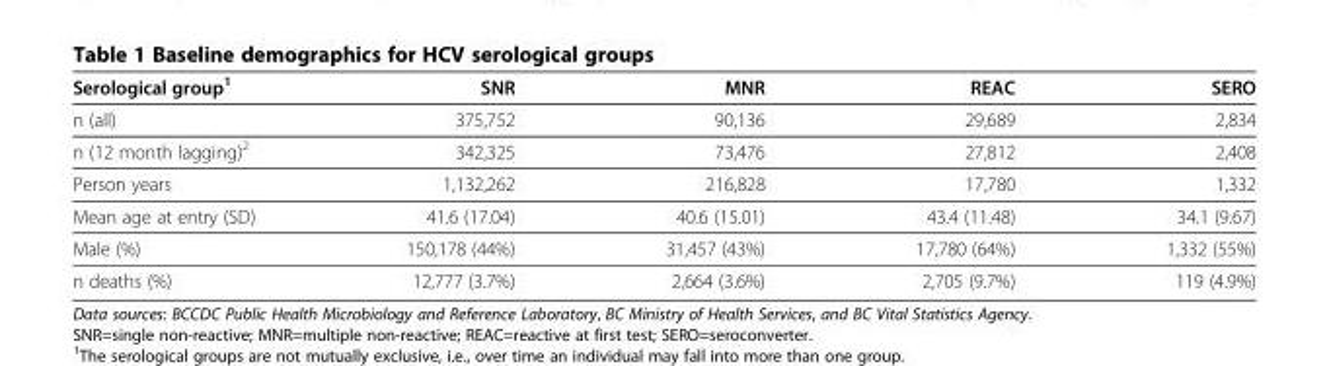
<table><thead><tr><td>Serological group<sup>1</sup></td><td>SNR</td><td>MNR</td><td>REAC</td><td>SERO</td></tr></thead><tbody><tr><td>n (all)</td><td>375,752</td><td>90,136</td><td>29,689</td><td>2,834</td></tr><tr><td>n (12 month lagging)<sup>2</sup></td><td>342,325</td><td>73,476</td><td>27,812</td><td>2,408</td></tr><tr><td>Person years</td><td>1,132,262</td><td>216,828</td><td>17,780</td><td>1,332</td></tr><tr><td>Mean age at entry (SD)</td><td>41.6 (17.04)</td><td>40.6 (15.01)</td><td>43.4 (11.48)</td><td>34.1 (9.67)</td></tr><tr><td>Male (%)</td><td>150,178 (44%)</td><td>31,457 (43%)</td><td>17,780 (64%)</td><td>1,332 (55%)</td></tr><tr><td>n deaths (%)</td><td>12,777 (3.7%)</td><td>2,664 (3.6%)</td><td>2,705 (9.7%)</td><td>119 (4.9%)</td></tr></tbody></table>